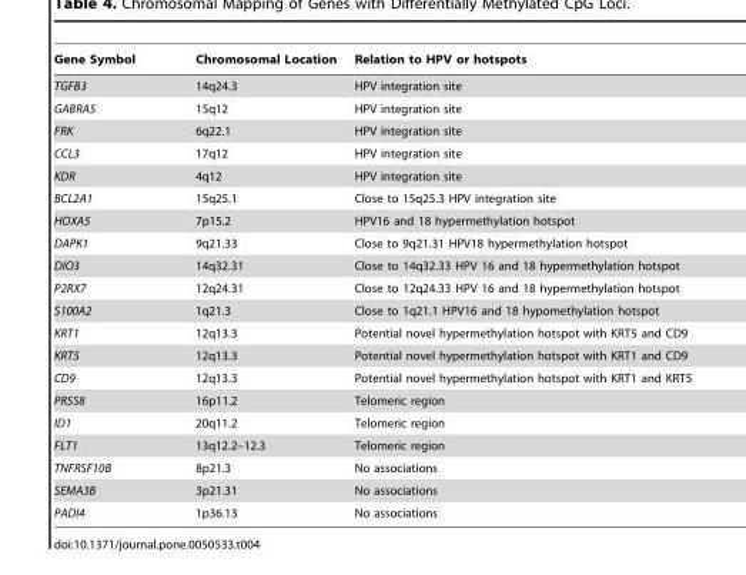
<table><thead><tr><td>Gene Symbol</td><td>Chromosomal Location</td><td>Relation to HPV or hotspots</td></tr></thead><tbody><tr><td>TGFB3</td><td>14q24.3</td><td>HPV integration site</td></tr><tr><td>GABRA5</td><td>15q12</td><td>HPV integration site</td></tr><tr><td>FRK</td><td>6q22.1</td><td>HPV integration site</td></tr><tr><td>CCL3</td><td>17q12</td><td>HPV integration site</td></tr><tr><td>KDR</td><td>4q12</td><td>HPV integration site</td></tr><tr><td>BCL2A1</td><td>15q25.1</td><td>Close to 15q25.3 HPV integration site</td></tr><tr><td>HOXA5</td><td>7p15.2</td><td>HPV16 and 18 hypermethylation hotspot</td></tr><tr><td>DAPK1</td><td>9q21.33</td><td>Close to 9q21.31 HPV18 hypermethylation hotspot</td></tr><tr><td>DIO3</td><td>14q32.31</td><td>Close to 14q32.33 HPV 16 and 18 hypermethylation hotspot</td></tr><tr><td>P2RX7</td><td>12q24.31</td><td>Close to 12q24.33 HPV 16 and 18 hypermethylation hotspot</td></tr><tr><td>S100A2</td><td>1q21.3</td><td>Close to 1q21.1 HPV16 and 18 hypomethylation hotspot</td></tr><tr><td>KRT1</td><td>12q13.3</td><td>Potential novel hypermethylation hotspot with KRT5 and CD9</td></tr><tr><td>KRT5</td><td>12q13.3</td><td>Potential novel hypermethylation hotspot with KRT1 and CD9</td></tr><tr><td>CD9</td><td>12q13.3</td><td>Potential novel hypermethylation hotspot with KRT1 and KRT5</td></tr><tr><td>PRSS8</td><td>16p11.2</td><td>Telomeric region</td></tr><tr><td>ID1</td><td>20q11.2</td><td>Telomeric region</td></tr><tr><td>FLT1</td><td>13q12.2–12.3</td><td>Telomeric region</td></tr><tr><td>TNFRSF10B</td><td>8p21.3</td><td>No associations</td></tr><tr><td>SEMA3B</td><td>3p21.31</td><td>No associations</td></tr><tr><td>PADI4</td><td>1p36.13</td><td>No associations</td></tr></tbody></table>